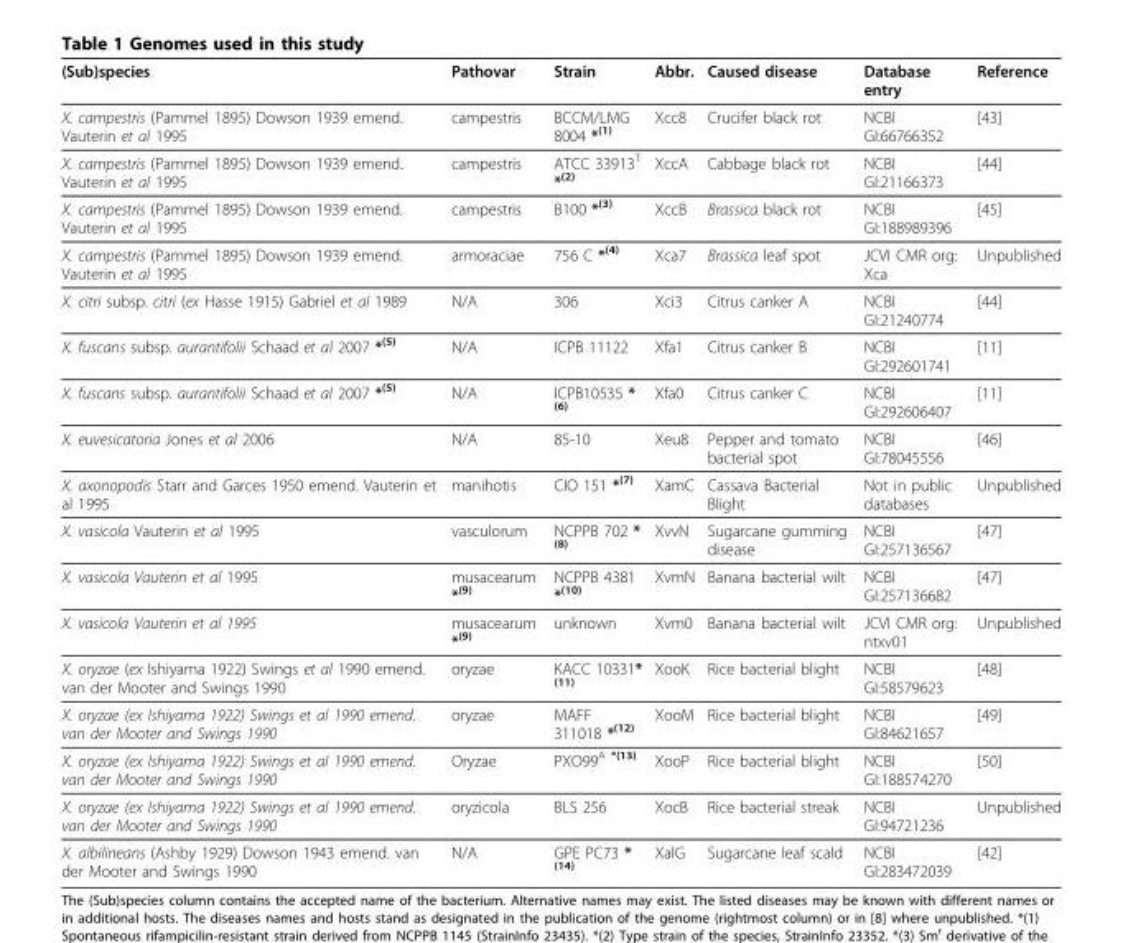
<table><thead><tr><td>(Sub)species</td><td>Pathovar</td><td>Strain</td><td>Abbr.</td><td>Caused disease</td><td>Database entry</td><td>Reference</td></tr></thead><tbody><tr><td>X. campestris (Pammel 1895) Dowson 1939 emend. Vauterin et al 1995</td><td>campestris</td><td>BCCM/LMG 8004 *<sup>(1)</sup></td><td>Xcc8</td><td>Crucifer black rot</td><td>NCBI GI:66766352</td><td>[43]</td></tr><tr><td>X. campestris (Pammel 1895) Dowson 1939 emend. Vauterin et al 1995</td><td>campestris</td><td>ATCC 33913<sup>T</sup> *<sup>(2)</sup></td><td>XccA</td><td>Cabbage black rot</td><td>NCBI GI:21166373</td><td>[44]</td></tr><tr><td>X. campestris (Pammel 1895) Dowson 1939 emend. Vauterin et al 1995</td><td>campestris</td><td>B100 *<sup>(3)</sup></td><td>XccB</td><td>Brassica black rot</td><td>NCBI GI:188989396</td><td>[45]</td></tr><tr><td>X. campestris (Pammel 1895) Dowson 1939 emend. Vauterin et al 1995</td><td>armoraciae</td><td>756 C *<sup>(4)</sup></td><td>Xca7</td><td>Brassica leaf spot</td><td>JCVI CMR org: Xca</td><td>Unpublished</td></tr><tr><td>X. citri subsp. citri (ex Hasse 1915) Gabriel et al 1989</td><td>N/A</td><td>306</td><td>Xci3</td><td>Citrus canker A</td><td>NCBI GI:21240774</td><td>[44]</td></tr><tr><td>X. fuscans subsp. aurantifolii Schaad et al 2007 *<sup>(5)</sup></td><td>N/A</td><td>ICPB 11122</td><td>Xfa1</td><td>Citrus canker B</td><td>NCBI GI:292601741</td><td>[11]</td></tr><tr><td>X. fuscans subsp. aurantifolii Schaad et al 2007 *<sup>(5)</sup></td><td>N/A</td><td>ICPB10535 * <sup>(6)</sup></td><td>Xfa0</td><td>Citrus canker C</td><td>NCBI GI:292606407</td><td>[11]</td></tr><tr><td>X. euvesicatoria Jones et al 2006</td><td>N/A</td><td>85-10</td><td>Xeu8</td><td>Pepper and tomato bacterial spot</td><td>NCBI GI:78045556</td><td>[46]</td></tr><tr><td>X. axonopodis Starr and Garces 1950 emend. Vauterin et al 1995</td><td>manihotis</td><td>CIO 151 *<sup>(7)</sup></td><td>XamC</td><td>Cassava Bacterial Blight</td><td>Not in public databases</td><td>Unpublished</td></tr><tr><td>X. vasicola Vauterin et al 1995</td><td>vasculorum</td><td>NCPPB 702 * <sup>(8)</sup></td><td>XvvN</td><td>Sugarcane gumming disease</td><td>NCBI GI:257136567</td><td>[47]</td></tr><tr><td>X. vasicola Vauterin et al 1995</td><td>musacearum *<sup>(9)</sup></td><td>NCPPB 4381 *<sup>(10)</sup></td><td>XvmN</td><td>Banana bacterial wilt</td><td>NCBI GI:257136682</td><td>[47]</td></tr><tr><td>X. vasicola Vauterin et al 1995</td><td>musacearum *<sup>(9)</sup></td><td>unknown</td><td>Xvm0</td><td>Banana bacterial wilt</td><td>JCVI CMR org: ntxv01</td><td>Unpublished</td></tr><tr><td>X. oryzae (ex Ishiyama 1922) Swings et al 1990 emend. van der Mooter and Swings 1990</td><td>oryzae</td><td>KACC 10331* <sup>(11)</sup></td><td>XooK</td><td>Rice bacterial blight</td><td>NCBI GI:58579623</td><td>[48]</td></tr><tr><td>X. oryzae (ex Ishiyama 1922) Swings et al 1990 emend. van der Mooter and Swings 1990</td><td>oryzae</td><td>MAFF 311018 *<sup>(12)</sup></td><td>XooM</td><td>Rice bacterial blight</td><td>NCBI GI:84621657</td><td>[49]</td></tr><tr><td>X. oryzae (ex Ishiyama 1922) Swings et al 1990 emend. van der Mooter and Swings 1990</td><td>Oryzae</td><td>PXO99<sup>A *(13)</sup></td><td>XooP</td><td>Rice bacterial blight</td><td>NCBI GI:188574270</td><td>[50]</td></tr><tr><td>X. oryzae (ex Ishiyama 1922) Swings et al 1990 emend. van der Mooter and Swings 1990</td><td>oryzicola</td><td>BLS 256</td><td>XocB</td><td>Rice bacterial streak</td><td>NCBI GI:94721236</td><td>Unpublished</td></tr><tr><td>X. albilineans (Ashby 1929) Dowson 1943 emend. van der Mooter and Swings 1990</td><td>N/A</td><td>GPE PC73 * <sup>(14)</sup></td><td>XalG</td><td>Sugarcane leaf scald</td><td>NCBI GI:283472039</td><td>[42]</td></tr></tbody></table>